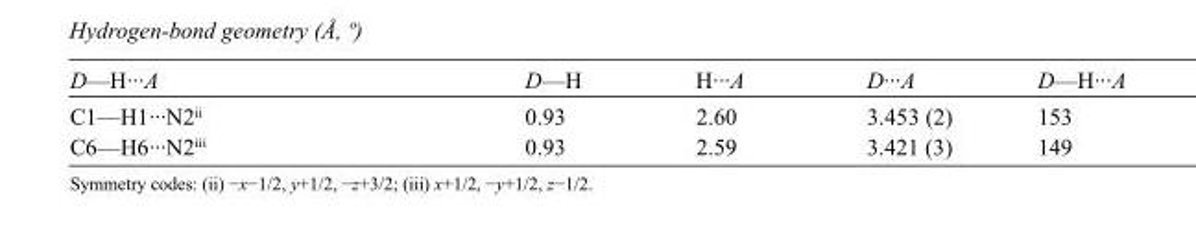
<table><tbody><tr><td>D—H···A</td><td>D—H</td><td>H···A</td><td>D···A</td><td>D—H···A</td></tr><tr><td>C1—H1···N2<sup>ii</sup></td><td>0.93</td><td>2.60</td><td>3.453 (2)</td><td>153</td></tr><tr><td>C6—H6···N2<sup>iii</sup></td><td>0.93</td><td>2.59</td><td>3.421 (3)</td><td>149</td></tr></tbody></table>